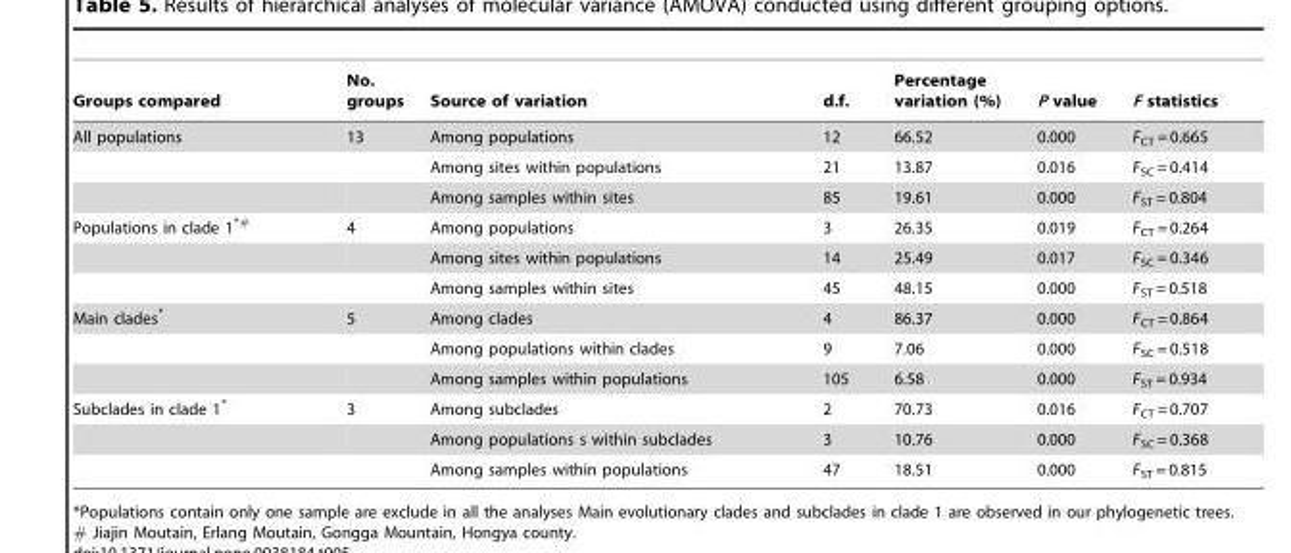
<table><thead><tr><td>Groups compared</td><td>No. groups</td><td>Source of variation</td><td>d.f.</td><td>Percentage variation (%)</td><td>P value</td><td>F statistics</td></tr></thead><tbody><tr><td rowspan="3">All populations</td><td>13</td><td>Among populations</td><td>12</td><td>66.52</td><td>0.000</td><td>F<sub>CT</sub> = 0.665</td></tr><tr><td></td><td>Among sites within populations</td><td>21</td><td>13.87</td><td>0.016</td><td>F<sub>SC</sub> = 0.414</td></tr><tr><td></td><td>Among samples within sites</td><td>85</td><td>19.61</td><td>0.000</td><td>F<sub>ST</sub> = 0.804</td></tr><tr><td rowspan="3">Populations in clade 1*<sup>#</sup></td><td>4</td><td>Among populations</td><td>3</td><td>26.35</td><td>0.019</td><td>F<sub>CT</sub> = 0.264</td></tr><tr><td></td><td>Among sites within populations</td><td>14</td><td>25.49</td><td>0.017</td><td>F<sub>SC</sub> = 0.346</td></tr><tr><td></td><td>Among samples within sites</td><td>45</td><td>48.15</td><td>0.000</td><td>F<sub>ST</sub> = 0.518</td></tr><tr><td rowspan="3">Main clades*</td><td>5</td><td>Among clades</td><td>4</td><td>86.37</td><td>0.000</td><td>F<sub>CT</sub> = 0.864</td></tr><tr><td></td><td>Among populations within clades</td><td>9</td><td>7.06</td><td>0.000</td><td>F<sub>SC</sub> = 0.518</td></tr><tr><td></td><td>Among samples within populations</td><td>105</td><td>6.58</td><td>0.000</td><td>F<sub>ST</sub> = 0.934</td></tr><tr><td rowspan="3">Subclades in clade 1*</td><td>3</td><td>Among subclades</td><td>2</td><td>70.73</td><td>0.016</td><td>F<sub>CT</sub> = 0.707</td></tr><tr><td></td><td>Among populations s within subclades</td><td>3</td><td>10.76</td><td>0.000</td><td>F<sub>SC</sub> = 0.368</td></tr><tr><td></td><td>Among samples within populations</td><td>47</td><td>18.51</td><td>0.000</td><td>F<sub>ST</sub> = 0.815</td></tr></tbody></table>